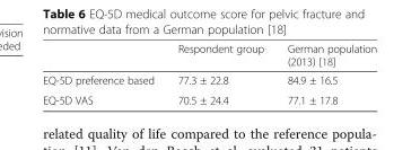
<table><thead><tr><td></td><td>Respondent group</td><td>German population (2013) [18]</td></tr></thead><tbody><tr><td>EQ-5D preference based</td><td>77.3 ± 22.8</td><td>84.9 ± 16.5</td></tr><tr><td>EQ-5D VAS</td><td>70.5 ± 24.4</td><td>77.1 ± 17.8</td></tr></tbody></table>